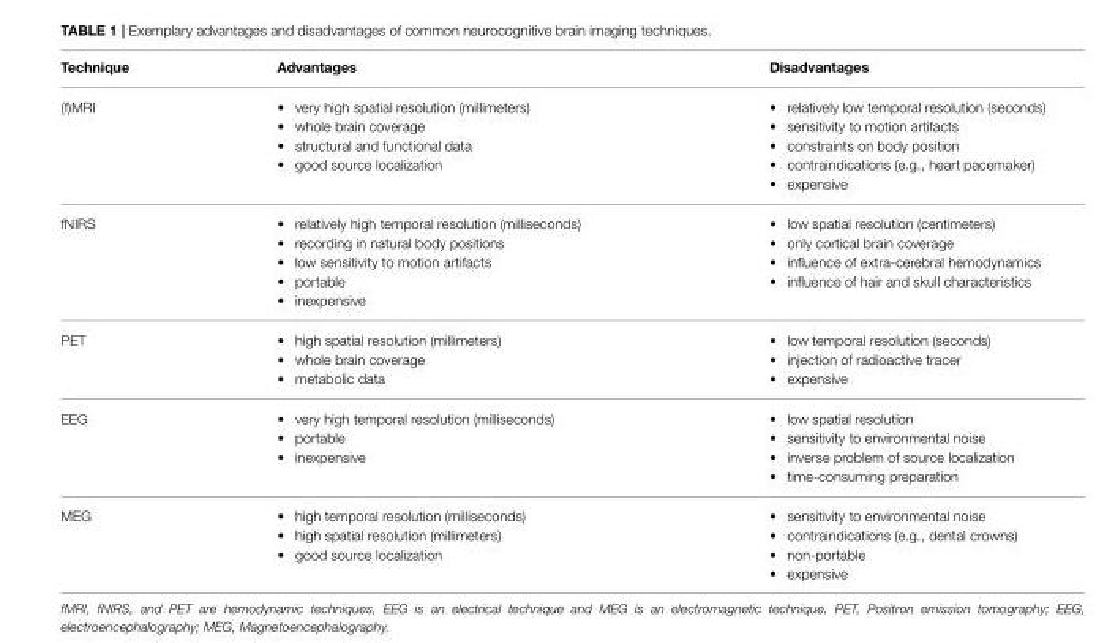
<table><thead><tr><td>Technique</td><td>Advantages</td><td>Disadvantages</td></tr></thead><tbody><tr><td>(f)MRI</td><td>• very high spatial resolution (millimeters) • whole brain coverage • structural and functional data • good source localization</td><td>• relatively low temporal resolution (seconds) • sensitivity to motion artifacts • constraints on body position • contraindications (e.g., heart pacemaker) • expensive</td></tr><tr><td>fNIRS</td><td>• relatively high temporal resolution (milliseconds) • recording in natural body positions • low sensitivity to motion artifacts • portable • inexpensive</td><td>• low spatial resolution (centimeters) • only cortical brain coverage • influence of extra-cerebral hemodynamics • influence of hair and skull characteristics</td></tr><tr><td>PET</td><td>• high spatial resolution (millimeters) • whole brain coverage • metabolic data</td><td>• low temporal resolution (seconds) • injection of radioactive tracer • expensive</td></tr><tr><td>EEG</td><td>• very high temporal resolution (milliseconds) • portable • inexpensive</td><td>• low spatial resolution • sensitivity to environmental noise • inverse problem of source localization • time-consuming preparation</td></tr><tr><td>MEG</td><td>• high temporal resolution (milliseconds) • high spatial resolution (millimeters) • good source localization</td><td>• sensitivity to environmental noise • contraindications (e.g., dental crowns) • non-portable • expensive</td></tr></tbody></table>